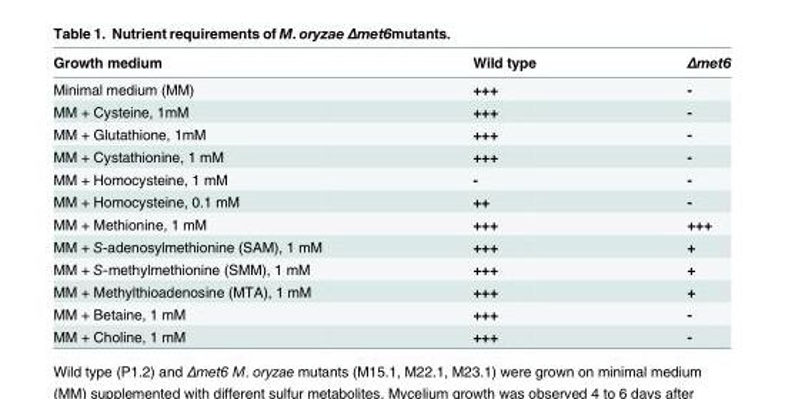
<table><thead><tr><td>Growth medium</td><td>Wild type</td><td>Δmet6</td></tr></thead><tbody><tr><td>Minimal medium (MM)</td><td>+++</td><td>-</td></tr><tr><td>MM + Cysteine, 1mM</td><td>+++</td><td>-</td></tr><tr><td>MM + Glutathione, 1mM</td><td>+++</td><td>-</td></tr><tr><td>MM + Cystathionine, 1 mM</td><td>+++</td><td>-</td></tr><tr><td>MM + Homocysteine, 1 mM</td><td>-</td><td>-</td></tr><tr><td>MM + Homocysteine, 0.1 mM</td><td>++</td><td>-</td></tr><tr><td>MM + Methionine, 1 mM</td><td>+++</td><td>+++</td></tr><tr><td>MM + S-adenosylmethionine (SAM), 1 mM</td><td>+++</td><td>+</td></tr><tr><td>MM + S-methylmethionine (SMM), 1 mM</td><td>+++</td><td>+</td></tr><tr><td>MM + Methylthioadenosine (MTA), 1 mM</td><td>+++</td><td>+</td></tr><tr><td>MM + Betaine, 1 mM</td><td>+++</td><td>-</td></tr><tr><td>MM + Choline, 1 mM</td><td>+++</td><td>-</td></tr></tbody></table>